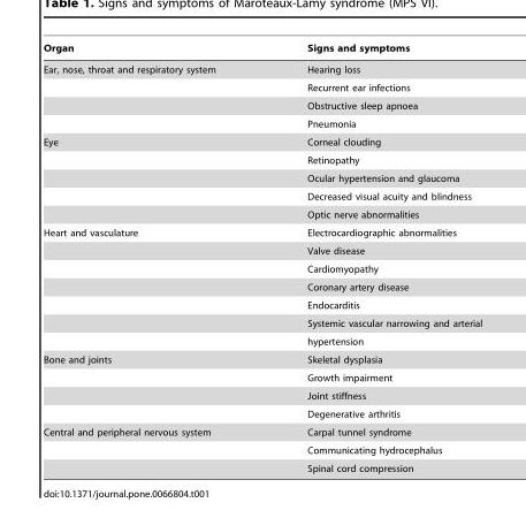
<table><thead><tr><td>Organ</td><td>Signs and symptoms</td></tr></thead><tbody><tr><td rowspan="4">Ear, nose, throat and respiratory system</td><td>Hearing loss</td></tr><tr><td>Recurrent ear infections</td></tr><tr><td>Obstructive sleep apnoea</td></tr><tr><td>Pneumonia</td></tr><tr><td rowspan="5">Eye</td><td>Corneal clouding</td></tr><tr><td>Retinopathy</td></tr><tr><td>Ocular hypertension and glaucoma</td></tr><tr><td>Decreased visual acuity and blindness</td></tr><tr><td>Optic nerve abnormalities</td></tr><tr><td rowspan="7">Heart and vasculature</td><td>Electrocardiographic abnormalities</td></tr><tr><td>Valve disease</td></tr><tr><td>Cardiomyopathy</td></tr><tr><td>Coronary artery disease</td></tr><tr><td>Endocarditis</td></tr><tr><td>Systemic vascular narrowing and arterial</td></tr><tr><td>hypertension</td></tr><tr><td rowspan="4">Bone and joints</td><td>Skeletal dysplasia</td></tr><tr><td>Growth impairment</td></tr><tr><td>Joint stiffness</td></tr><tr><td>Degenerative arthritis</td></tr><tr><td rowspan="3">Central and peripheral nervous system</td><td>Carpal tunnel syndrome</td></tr><tr><td>Communicating hydrocephalus</td></tr><tr><td>Spinal cord compression</td></tr></tbody></table>